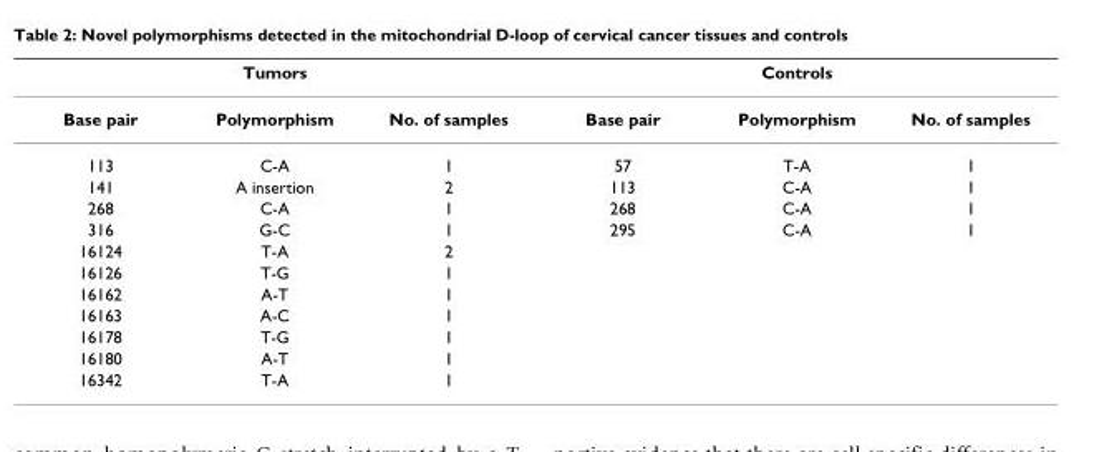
<table><thead><tr><td></td><td>Tumors</td><td></td><td></td><td>Controls</td><td></td></tr></thead><tbody><tr><td>Base pair</td><td>Polymorphism</td><td>No. of samples</td><td>Base pair</td><td>Polymorphism</td><td>No. of samples</td></tr><tr><td>113</td><td>C-A</td><td>1</td><td>57</td><td>T-A</td><td>1</td></tr><tr><td>141</td><td>A insertion</td><td>2</td><td>113</td><td>C-A</td><td>1</td></tr><tr><td>268</td><td>C-A</td><td>1</td><td>268</td><td>C-A</td><td>1</td></tr><tr><td>316</td><td>G-C</td><td>1</td><td>295</td><td>C-A</td><td>1</td></tr><tr><td>16124</td><td>T-A</td><td>2</td><td></td><td></td><td></td></tr><tr><td>16126</td><td>T-G</td><td>1</td><td></td><td></td><td></td></tr><tr><td>16162</td><td>A-T</td><td>1</td><td></td><td></td><td></td></tr><tr><td>16163</td><td>A-C</td><td>1</td><td></td><td></td><td></td></tr><tr><td>16178</td><td>T-G</td><td>1</td><td></td><td></td><td></td></tr><tr><td>16180</td><td>A-T</td><td>1</td><td></td><td></td><td></td></tr><tr><td>16342</td><td>T-A</td><td>1</td><td></td><td></td><td></td></tr></tbody></table>